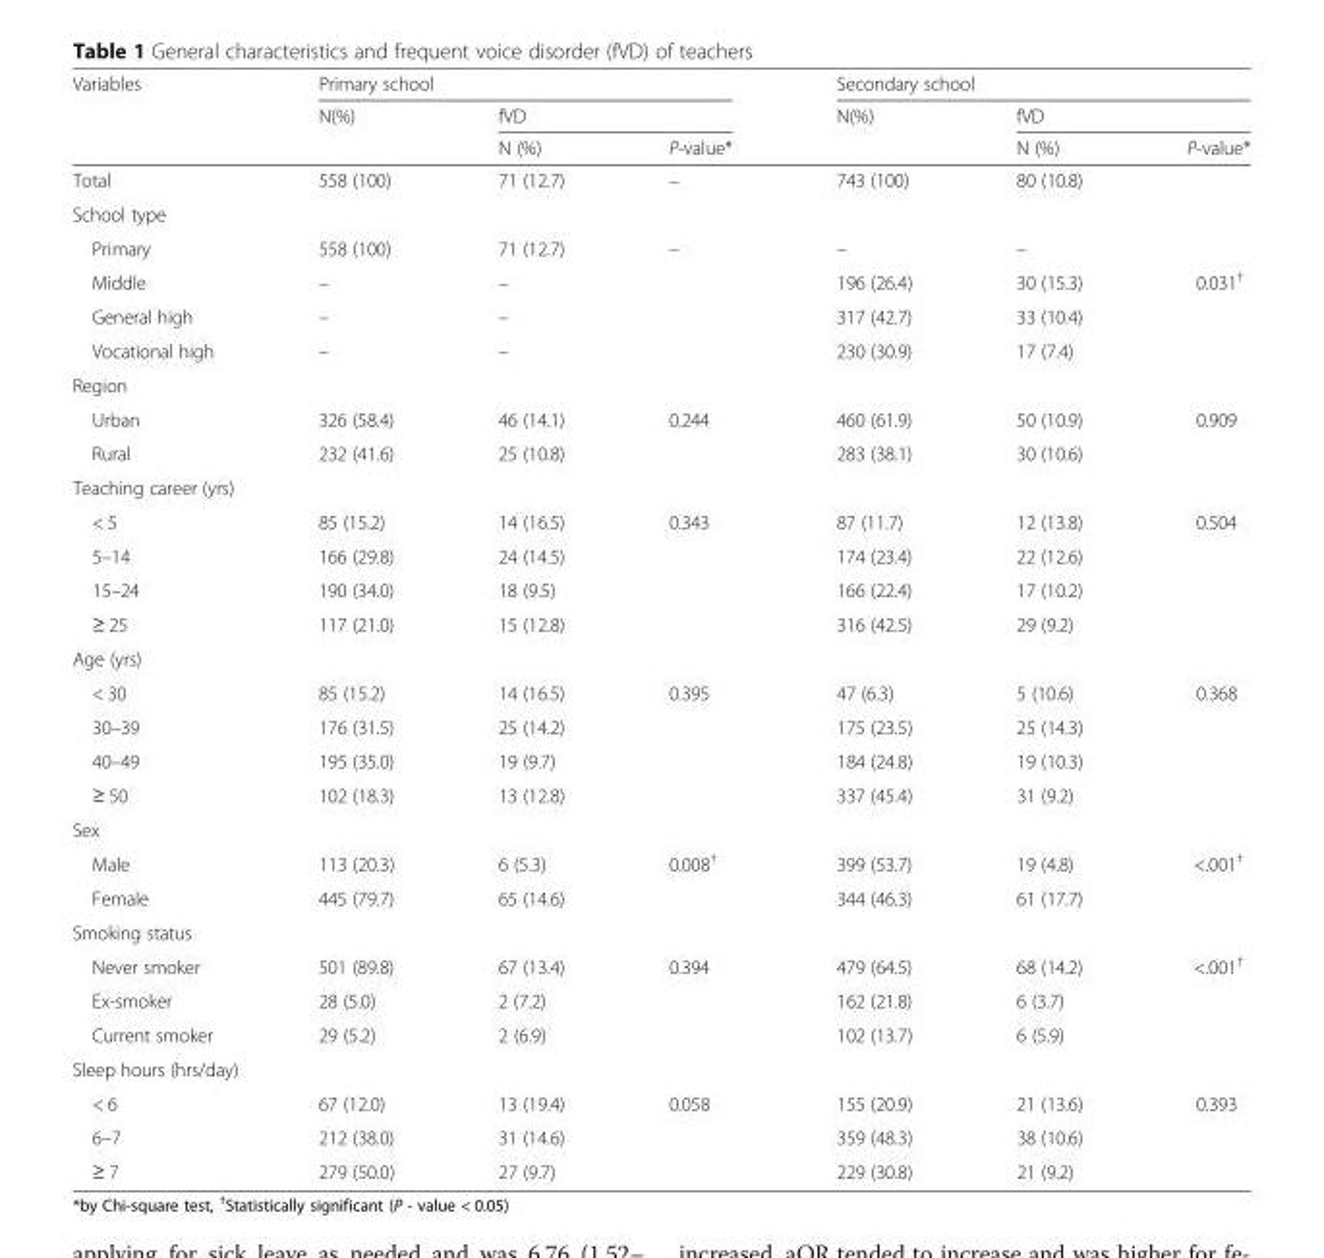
<table><thead><tr><td rowspan="3">Variables</td><td colspan="3">Primary school</td><td colspan="3">Secondary school</td></tr><tr><td rowspan="2">N(%)</td><td colspan="2">fVD</td><td rowspan="2">N(%)</td><td colspan="2">fVD</td></tr><tr><td>N (%)</td><td>P-value*</td><td>N (%)</td><td>P-value*</td></tr></thead><tbody><tr><td>Total</td><td>558 (100)</td><td>71 (12.7)</td><td>–</td><td>743 (100)</td><td>80 (10.8)</td><td></td></tr><tr><td colspan="7">School type</td></tr><tr><td>Primary</td><td>558 (100)</td><td>71 (12.7)</td><td>–</td><td>–</td><td>–</td><td></td></tr><tr><td>Middle</td><td>–</td><td>–</td><td></td><td>196 (26.4)</td><td>30 (15.3)</td><td>0.031<sup>†</sup></td></tr><tr><td>General high</td><td>–</td><td>–</td><td></td><td>317 (42.7)</td><td>33 (10.4)</td><td></td></tr><tr><td>Vocational high</td><td>–</td><td>–</td><td></td><td>230 (30.9)</td><td>17 (7.4)</td><td></td></tr><tr><td colspan="7">Region</td></tr><tr><td>Urban</td><td>326 (58.4)</td><td>46 (14.1)</td><td>0.244</td><td>460 (61.9)</td><td>50 (10.9)</td><td>0.909</td></tr><tr><td>Rural</td><td>232 (41.6)</td><td>25 (10.8)</td><td></td><td>283 (38.1)</td><td>30 (10.6)</td><td></td></tr><tr><td colspan="7">Teaching career (yrs)</td></tr><tr><td>&lt; 5</td><td>85 (15.2)</td><td>14 (16.5)</td><td>0.343</td><td>87 (11.7)</td><td>12 (13.8)</td><td>0.504</td></tr><tr><td>5–14</td><td>166 (29.8)</td><td>24 (14.5)</td><td></td><td>174 (23.4)</td><td>22 (12.6)</td><td></td></tr><tr><td>15–24</td><td>190 (34.0)</td><td>18 (9.5)</td><td></td><td>166 (22.4)</td><td>17 (10.2)</td><td></td></tr><tr><td>≥ 25</td><td>117 (21.0)</td><td>15 (12.8)</td><td></td><td>316 (42.5)</td><td>29 (9.2)</td><td></td></tr><tr><td colspan="7">Age (yrs)</td></tr><tr><td>&lt; 30</td><td>85 (15.2)</td><td>14 (16.5)</td><td>0.395</td><td>47 (6.3)</td><td>5 (10.6)</td><td>0.368</td></tr><tr><td>30–39</td><td>176 (31.5)</td><td>25 (14.2)</td><td></td><td>175 (23.5)</td><td>25 (14.3)</td><td></td></tr><tr><td>40–49</td><td>195 (35.0)</td><td>19 (9.7)</td><td></td><td>184 (24.8)</td><td>19 (10.3)</td><td></td></tr><tr><td>≥ 50</td><td>102 (18.3)</td><td>13 (12.8)</td><td></td><td>337 (45.4)</td><td>31 (9.2)</td><td></td></tr><tr><td colspan="7">Sex</td></tr><tr><td>Male</td><td>113 (20.3)</td><td>6 (5.3)</td><td>0.008<sup>†</sup></td><td>399 (53.7)</td><td>19 (4.8)</td><td>&lt;.001<sup>†</sup></td></tr><tr><td>Female</td><td>445 (79.7)</td><td>65 (14.6)</td><td></td><td>344 (46.3)</td><td>61 (17.7)</td><td></td></tr><tr><td colspan="7">Smoking status</td></tr><tr><td>Never smoker</td><td>501 (89.8)</td><td>67 (13.4)</td><td>0.394</td><td>479 (64.5)</td><td>68 (14.2)</td><td>&lt;.001<sup>†</sup></td></tr><tr><td>Ex-smoker</td><td>28 (5.0)</td><td>2 (7.2)</td><td></td><td>162 (21.8)</td><td>6 (3.7)</td><td></td></tr><tr><td>Current smoker</td><td>29 (5.2)</td><td>2 (6.9)</td><td></td><td>102 (13.7)</td><td>6 (5.9)</td><td></td></tr><tr><td colspan="7">Sleep hours (hrs/day)</td></tr><tr><td>&lt; 6</td><td>67 (12.0)</td><td>13 (19.4)</td><td>0.058</td><td>155 (20.9)</td><td>21 (13.6)</td><td>0.393</td></tr><tr><td>6–7</td><td>212 (38.0)</td><td>31 (14.6)</td><td></td><td>359 (48.3)</td><td>38 (10.6)</td><td></td></tr><tr><td>≥ 7</td><td>279 (50.0)</td><td>27 (9.7)</td><td></td><td>229 (30.8)</td><td>21 (9.2)</td><td></td></tr></tbody></table>